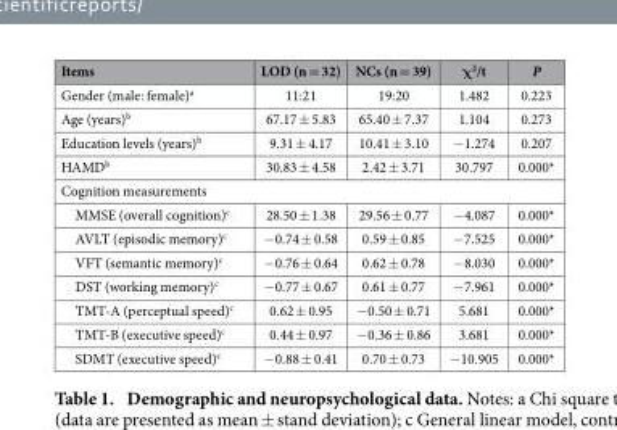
<table><thead><tr><td>Items</td><td>LOD (n = 32)</td><td>NCs (n = 39)</td><td>χ<sup>2</sup>/t</td><td>P</td></tr></thead><tbody><tr><td>Gender (male: female)<sup>a</sup></td><td>11:21</td><td>19:20</td><td>1.482</td><td>0.223</td></tr><tr><td>Age (years)<sup>b</sup></td><td>67.17 ± 5.83</td><td>65.40 ± 7.37</td><td>1.104</td><td>0.273</td></tr><tr><td>Education levels (years)<sup>b</sup></td><td>9.31 ± 4.17</td><td>10.41 ± 3.10</td><td>− 1.274</td><td>0.207</td></tr><tr><td>HAMD<sup>b</sup></td><td>30.83 ± 4.58</td><td>2.42 ± 3.71</td><td>30.797</td><td>0.000*</td></tr><tr><td colspan="5">Cognition measurements</td></tr><tr><td>MMSE (overall cognition)<sup>c</sup></td><td>28.50 ± 1.38</td><td>29.56 ± 0.77</td><td>− 4.087</td><td>0.000*</td></tr><tr><td>AVLT (episodic memory)<sup>c</sup></td><td>− 0.74 ± 0.58</td><td>0.59 ± 0.85</td><td>− 7.525</td><td>0.000*</td></tr><tr><td>VFT (semantic memory)<sup>c</sup></td><td>− 0.76 ± 0.64</td><td>0.62 ± 0.78</td><td>− 8.030</td><td>0.000*</td></tr><tr><td>DST (working memory)<sup>c</sup></td><td>− 0.77 ± 0.67</td><td>0.61 ± 0.77</td><td>− 7.961</td><td>0.000*</td></tr><tr><td>TMT-A (perceptual speed)<sup>c</sup></td><td>0.62 ± 0.95</td><td>− 0.50 ± 0.71</td><td>5.681</td><td>0.000*</td></tr><tr><td>TMT-B (executive speed)<sup>c</sup></td><td>0.44 ± 0.97</td><td>− 0.36 ± 0.86</td><td>3.681</td><td>0.000*</td></tr><tr><td>SDMT (executive speed)<sup>c</sup></td><td>− 0.88 ± 0.41</td><td>0.70 ± 0.73</td><td>− 10.905</td><td>0.000*</td></tr></tbody></table>